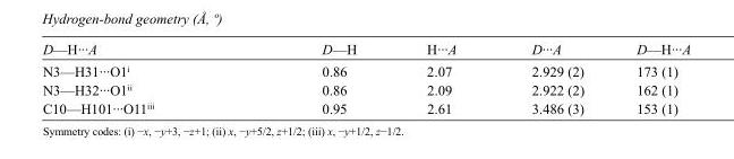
<table><tbody><tr><td>D—H···A</td><td>D—H</td><td>H···A</td><td>D···A</td><td>D—H···A</td></tr><tr><td>N3—H31···O1<sup>i</sup></td><td>0.86</td><td>2.07</td><td>2.929 (2)</td><td>173 (1)</td></tr><tr><td>N3—H32···O1<sup>ii</sup></td><td>0.86</td><td>2.09</td><td>2.922 (2)</td><td>162 (1)</td></tr><tr><td>C10—H101···O11<sup>iii</sup></td><td>0.95</td><td>2.61</td><td>3.486 (3)</td><td>153 (1)</td></tr></tbody></table>